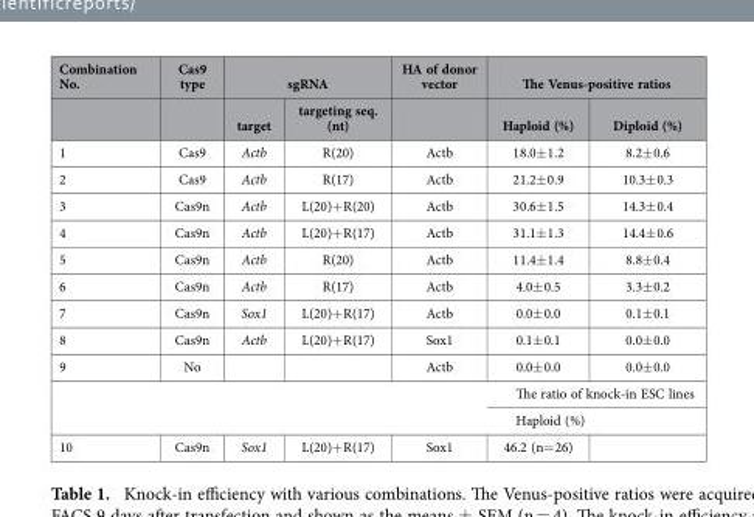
<table><thead><tr><td rowspan="2">Combination No.</td><td rowspan="2">Cas9 type</td><td colspan="2">sgRNA</td><td rowspan="2">HA of donor vector</td><td colspan="2">The Venus-positive ratios</td></tr><tr><td>target</td><td>targeting seq. (nt)</td><td>Haploid (%)</td><td>Diploid (%)</td></tr></thead><tbody><tr><td>1</td><td>Cas9</td><td>Actb</td><td>R(20)</td><td>Actb</td><td>18.0± 1.2</td><td>8.2± 0.6</td></tr><tr><td>2</td><td>Cas9</td><td>Actb</td><td>R(17)</td><td>Actb</td><td>21.2± 0.9</td><td>10.3± 0.3</td></tr><tr><td>3</td><td>Cas9n</td><td>Actb</td><td>L(20)+ R(20)</td><td>Actb</td><td>30.6± 1.5</td><td>14.3± 0.4</td></tr><tr><td>4</td><td>Cas9n</td><td>Actb</td><td>L(20)+ R(17)</td><td>Actb</td><td>31.1± 1.3</td><td>14.4± 0.6</td></tr><tr><td>5</td><td>Cas9n</td><td>Actb</td><td>R(20)</td><td>Actb</td><td>11.4± 1.4</td><td>8.8± 0.4</td></tr><tr><td>6</td><td>Cas9n</td><td>Actb</td><td>R(17)</td><td>Actb</td><td>4.0± 0.5</td><td>3.3± 0.2</td></tr><tr><td>7</td><td>Cas9n</td><td>Sox1</td><td>L(20)+ R(17)</td><td>Actb</td><td>0.0± 0.0</td><td>0.1± 0.1</td></tr><tr><td>8</td><td>Cas9n</td><td>Actb</td><td>L(20)+ R(17)</td><td>Sox1</td><td>0.1± 0.1</td><td>0.0± 0.0</td></tr><tr><td>9</td><td>No</td><td></td><td></td><td>Actb</td><td>0.0± 0.0</td><td>0.0± 0.0</td></tr><tr><td rowspan="2" colspan="5"></td><td colspan="2">The ratio of knock-in ESC lines</td></tr><tr><td colspan="2">Haploid (%)</td></tr><tr><td>10</td><td>Cas9n</td><td>Sox1</td><td>L(20)+ R(17)</td><td>Sox1</td><td>46.2 (n= 26)</td><td></td></tr></tbody></table>